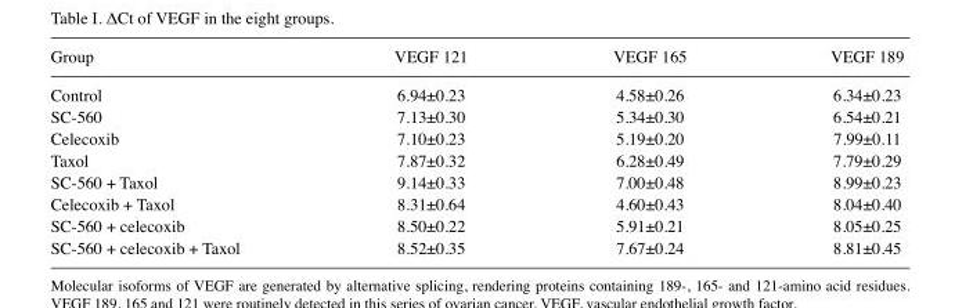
<table><thead><tr><td>Group</td><td>VEGF 121</td><td>VEGF 165</td><td>VEGF 189</td></tr></thead><tbody><tr><td>Control</td><td>6.94±0.23</td><td>4.58±0.26</td><td>6.34±0.23</td></tr><tr><td>SC-560</td><td>7.13±0.30</td><td>5.34±0.30</td><td>6.54±0.21</td></tr><tr><td>Celecoxib</td><td>7.10±0.23</td><td>5.19±0.20</td><td>7.99±0.11</td></tr><tr><td>Taxol</td><td>7.87±0.32</td><td>6.28±0.49</td><td>7.79±0.29</td></tr><tr><td>SC-560 + Taxol</td><td>9.14±0.33</td><td>7.00±0.48</td><td>8.99±0.23</td></tr><tr><td>Celecoxib + Taxol</td><td>8.31±0.64</td><td>4.60±0.43</td><td>8.04±0.40</td></tr><tr><td>SC-560 + celecoxib</td><td>8.50±0.22</td><td>5.91±0.21</td><td>8.05±0.25</td></tr><tr><td>SC-560 + celecoxib + Taxol</td><td>8.52±0.35</td><td>7.67±0.24</td><td>8.81±0.45</td></tr></tbody></table>